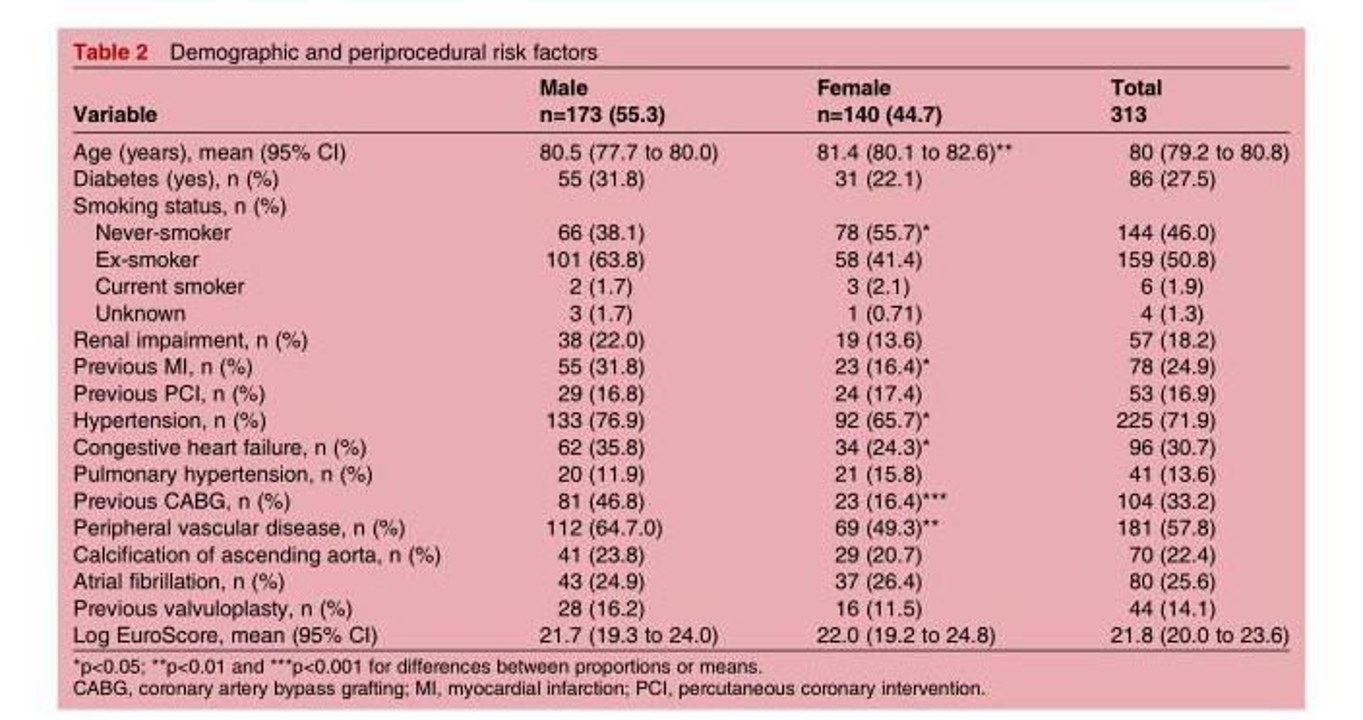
<table><thead><tr><td rowspan="2">Variable</td><td rowspan="2">Male n=173 (55.3)</td><td rowspan="2">Female n=140 (44.7)</td><td rowspan="2">Total 313</td></tr><tr></tr></thead><tbody><tr><td>Age (years), mean (95% CI)</td><td>80.5 (77.7 to 80.0)</td><td>81.4 (80.1 to 82.6)**</td><td>80 (79.2 to 80.8)</td></tr><tr><td>Diabetes (yes), n (%)</td><td>55 (31.8)</td><td>31 (22.1)</td><td>86 (27.5)</td></tr><tr><td colspan="4">Smoking status, n (%)</td></tr><tr><td>Never-smoker</td><td>66 (38.1)</td><td>78 (55.7)*</td><td>144 (46.0)</td></tr><tr><td>Ex-smoker</td><td>101 (63.8)</td><td>58 (41.4)</td><td>159 (50.8)</td></tr><tr><td>Current smoker</td><td>2 (1.7)</td><td>3 (2.1)</td><td>6 (1.9)</td></tr><tr><td>Unknown</td><td>3 (1.7)</td><td>1 (0.71)</td><td>4 (1.3)</td></tr><tr><td>Renal impairment, n (%)</td><td>38 (22.0)</td><td>19 (13.6)</td><td>57 (18.2)</td></tr><tr><td>Previous MI, n (%)</td><td>55 (31.8)</td><td>23 (16.4)*</td><td>78 (24.9)</td></tr><tr><td>Previous PCI, n (%)</td><td>29 (16.8)</td><td>24 (17.4)</td><td>53 (16.9)</td></tr><tr><td>Hypertension, n (%)</td><td>133 (76.9)</td><td>92 (65.7)*</td><td>225 (71.9)</td></tr><tr><td>Congestive heart failure, n (%)</td><td>62 (35.8)</td><td>34 (24.3)*</td><td>96 (30.7)</td></tr><tr><td>Pulmonary hypertension, n (%)</td><td>20 (11.9)</td><td>21 (15.8)</td><td>41 (13.6)</td></tr><tr><td>Previous CABG, n (%)</td><td>81 (46.8)</td><td>23 (16.4)***</td><td>104 (33.2)</td></tr><tr><td>Peripheral vascular disease, n (%)</td><td>112 (64.7.0)</td><td>69 (49.3)**</td><td>181 (57.8)</td></tr><tr><td>Calcification of ascending aorta, n (%)</td><td>41 (23.8)</td><td>29 (20.7)</td><td>70 (22.4)</td></tr><tr><td>Atrial fibrillation, n (%)</td><td>43 (24.9)</td><td>37 (26.4)</td><td>80 (25.6)</td></tr><tr><td>Previous valvuloplasty, n (%)</td><td>28 (16.2)</td><td>16 (11.5)</td><td>44 (14.1)</td></tr><tr><td>Log EuroScore, mean (95% CI)</td><td>21.7 (19.3 to 24.0)</td><td>22.0 (19.2 to 24.8)</td><td>21.8 (20.0 to 23.6)</td></tr></tbody></table>